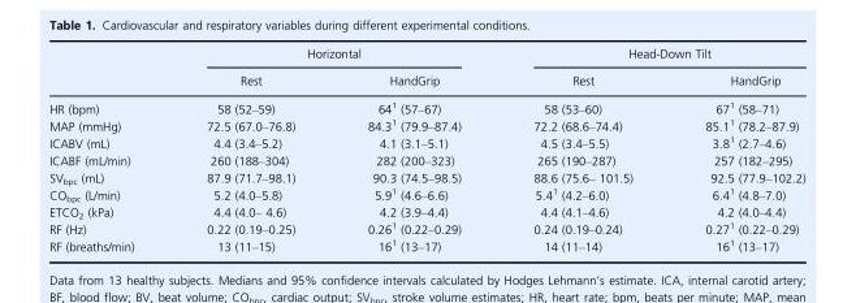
<table><thead><tr><td rowspan="2"></td><td colspan="2">Horizontal</td><td colspan="2">Head-Down Tilt</td></tr><tr><td>Rest</td><td>HandGrip</td><td>Rest</td><td>HandGrip</td></tr></thead><tbody><tr><td>HR (bpm)</td><td>58 (52–59)</td><td>641 (57–67)</td><td>58 (53–60)</td><td>671 (58–71)</td></tr><tr><td>MAP (mmHg)</td><td>72.5 (67.0–76.8)</td><td>84.31 (79.9–87.4)</td><td>72.2 (68.6–74.4)</td><td>85.11 (78.2–87.9)</td></tr><tr><td>ICABV (mL)</td><td>4.4 (3.4–5.2)</td><td>4.1 (3.1–5.1)</td><td>4.5 (3.4–5.5)</td><td>3.81 (2.7–4.6)</td></tr><tr><td>ICABF (mL/min)</td><td>260 (188–304)</td><td>282 (200–323)</td><td>265 (190–287)</td><td>257 (182–295)</td></tr><tr><td>SV<sub>bpc</sub> (mL)</td><td>87.9 (71.7–98.1)</td><td>90.3 (74.5–98.5)</td><td>88.6 (75.6– 101.5)</td><td>92.5 (77.9–102.2)</td></tr><tr><td>CO<sub>bpc</sub> (L/min)</td><td>5.2 (4.0–5.8)</td><td>5.91 (4.6–6.6)</td><td>5.41 (4.2–6.0)</td><td>6.41 (4.8–7.0)</td></tr><tr><td>ETCO<sub>2</sub> (kPa)</td><td>4.4 (4.0– 4.6)</td><td>4.2 (3.9–4.4)</td><td>4.4 (4.1–4.6)</td><td>4.2 (4.0–4.4)</td></tr><tr><td>RF (Hz)</td><td>0.22 (0.19–0.25)</td><td>0.261 (0.22–0.29)</td><td>0.24 (0.19–0.24)</td><td>0.271 (0.22–0.29)</td></tr><tr><td>RF (breaths/min)</td><td>13 (11–15)</td><td>161 (13–17)</td><td>14 (11–14)</td><td>161 (13–17)</td></tr></tbody></table>